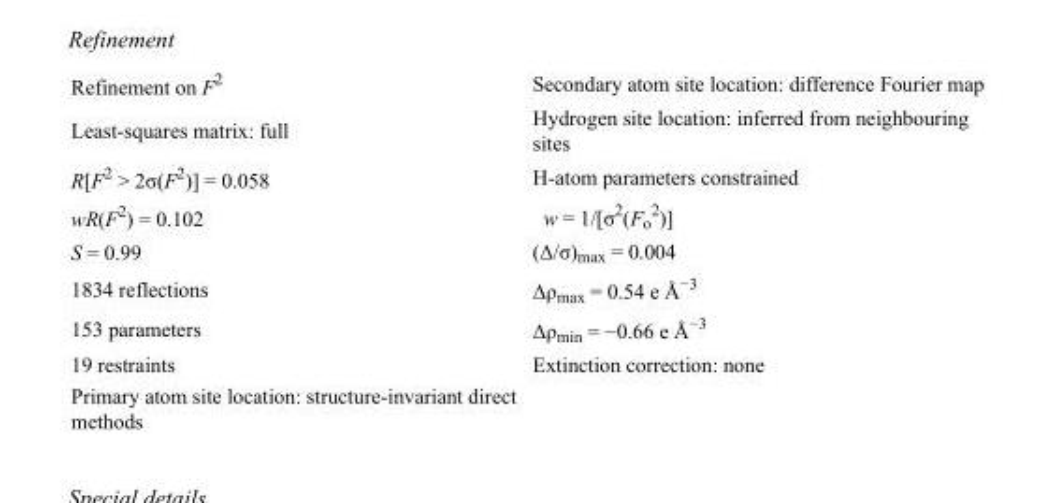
<table><tbody><tr><td>Refinement on F<sup>2</sup></td><td>Secondary atom site location: difference Fourier map</td></tr><tr><td>Least-squares matrix: full</td><td>Hydrogen site location: inferred from neighbouring sites</td></tr><tr><td>R[F<sup>2</sup> &gt; 2σ(F<sup>2</sup>)] = 0.058</td><td>H-atom parameters constrained</td></tr><tr><td>wR(F<sup>2</sup>) = 0.102</td><td>w = 1/[σ<sup>2</sup>(F<sub>o</sub> <sup>2</sup>)]</td></tr><tr><td>S = 0.99</td><td>(Δ/σ)<sub>max</sub> = 0.004</td></tr><tr><td>1834 reflections</td><td>Δρ<sub>max</sub> = 0.54 e Å<sup>−3</sup></td></tr><tr><td>153 parameters</td><td>Δρ<sub>min</sub> = −0.66 e Å<sup>−3</sup></td></tr><tr><td>19 restraints</td><td>Extinction correction: none</td></tr><tr><td>Primary atom site location: structure-invariant direct methods</td><td></td></tr></tbody></table>